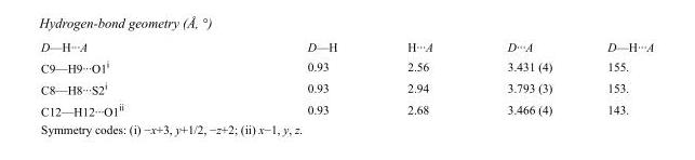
<table><tbody><tr><td>D—H···A</td><td>D—H</td><td>H···A</td><td>D···A</td><td>D—H···A</td></tr><tr><td>C9—H9···O1<sup>i</sup></td><td>0.93</td><td>2.56</td><td>3.431 (4)</td><td>155.</td></tr><tr><td>C8—H8···S2<sup>i</sup></td><td>0.93</td><td>2.94</td><td>3.793 (3)</td><td>153.</td></tr><tr><td>C12—H12···O1<sup>ii</sup></td><td>0.93</td><td>2.68</td><td>3.466 (4)</td><td>143.</td></tr></tbody></table>